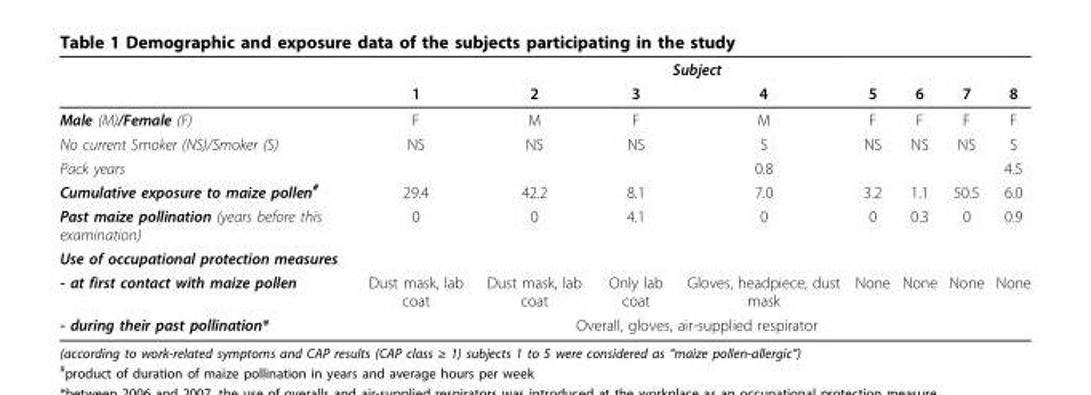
<table><thead><tr><td rowspan="2"></td><td colspan="8">Subject</td></tr><tr><td>1</td><td>2</td><td>3</td><td>4</td><td>5</td><td>6</td><td>7</td><td>8</td></tr></thead><tbody><tr><td>Male (M)/Female (F)</td><td>F</td><td>M</td><td>F</td><td>M</td><td>F</td><td>F</td><td>F</td><td>F</td></tr><tr><td>No current Smoker (NS)/Smoker (S)</td><td>NS</td><td>NS</td><td>NS</td><td>S</td><td>NS</td><td>NS</td><td>NS</td><td>S</td></tr><tr><td>Pack years</td><td></td><td></td><td></td><td>0.8</td><td></td><td></td><td></td><td>4.5</td></tr><tr><td>Cumulative exposure to maize pollen<sup>#</sup></td><td>29.4</td><td>42.2</td><td>8.1</td><td>7.0</td><td>3.2</td><td>1.1</td><td>50.5</td><td>6.0</td></tr><tr><td>Past maize pollination (years before this examination)</td><td>0</td><td>0</td><td>4.1</td><td>0</td><td>0</td><td>0.3</td><td>0</td><td>0.9</td></tr><tr><td colspan="9">Use of occupational protection measures</td></tr><tr><td>- at first contact with maize pollen</td><td>Dust mask, lab coat</td><td>Dust mask, lab coat</td><td>Only lab coat</td><td>Gloves, headpiece, dust mask</td><td>None</td><td>None</td><td>None</td><td>None</td></tr><tr><td>- during their past pollination*</td><td colspan="8">Overall, gloves, air-supplied respirator</td></tr></tbody></table>